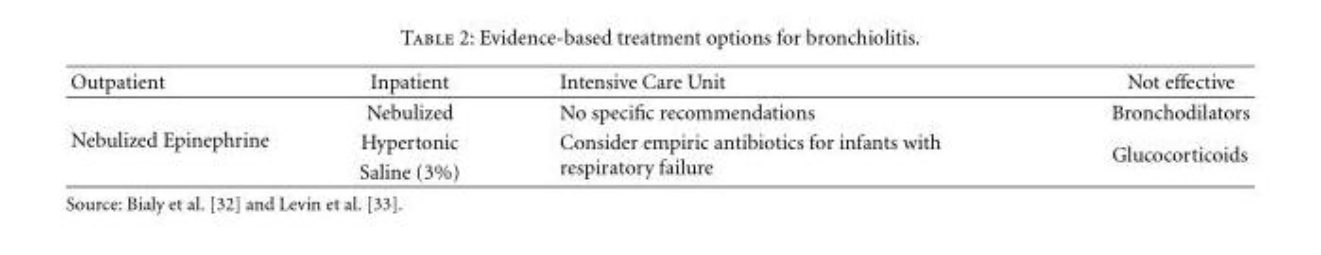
<table><thead><tr><td>Outpatient</td><td>Inpatient</td><td>Intensive Care Unit</td><td>Not effective</td></tr></thead><tbody><tr><td rowspan="3">Nebulized Epinephrine</td><td>Nebulized</td><td>No specific recommendations</td><td>Bronchodilators</td></tr><tr><td>Hypertonic</td><td rowspan="2">Consider empiric antibiotics for infants with respiratory failure</td><td rowspan="2">Glucocorticoids</td></tr><tr><td>Saline (3%)</td></tr></tbody></table>